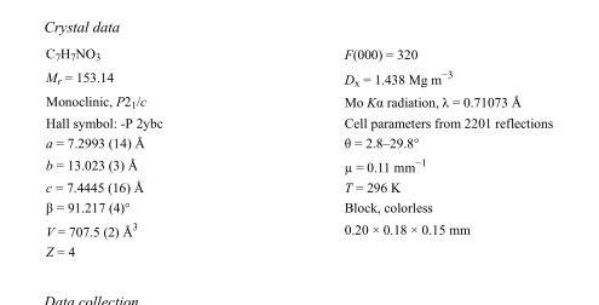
<table><tbody><tr><td>C<sub>7</sub>H<sub>7</sub>NO<sub>3</sub></td><td>F(000) = 320</td></tr><tr><td>M<sub>r</sub> = 153.14</td><td>D<sub>x</sub> = 1.438 Mg m<sup>−3</sup></td></tr><tr><td>Monoclinic, P2<sub>1</sub>/c</td><td>Mo Kα radiation, λ = 0.71073 Å</td></tr><tr><td>Hall symbol: -P 2ybc</td><td>Cell parameters from 2201 reflections</td></tr><tr><td>a = 7.2993 (14) Å</td><td>θ = 2.8–29.8°</td></tr><tr><td>b = 13.023 (3) Å</td><td>µ = 0.11 mm<sup>−1</sup></td></tr><tr><td>c = 7.4445 (16) Å</td><td>T = 296 K</td></tr><tr><td>β = 91.217 (4)°</td><td>Block, colorless</td></tr><tr><td>V = 707.5 (2) Å<sup>3</sup></td><td>0.20 × 0.18 × 0.15 mm</td></tr><tr><td>Z = 4</td><td></td></tr></tbody></table>